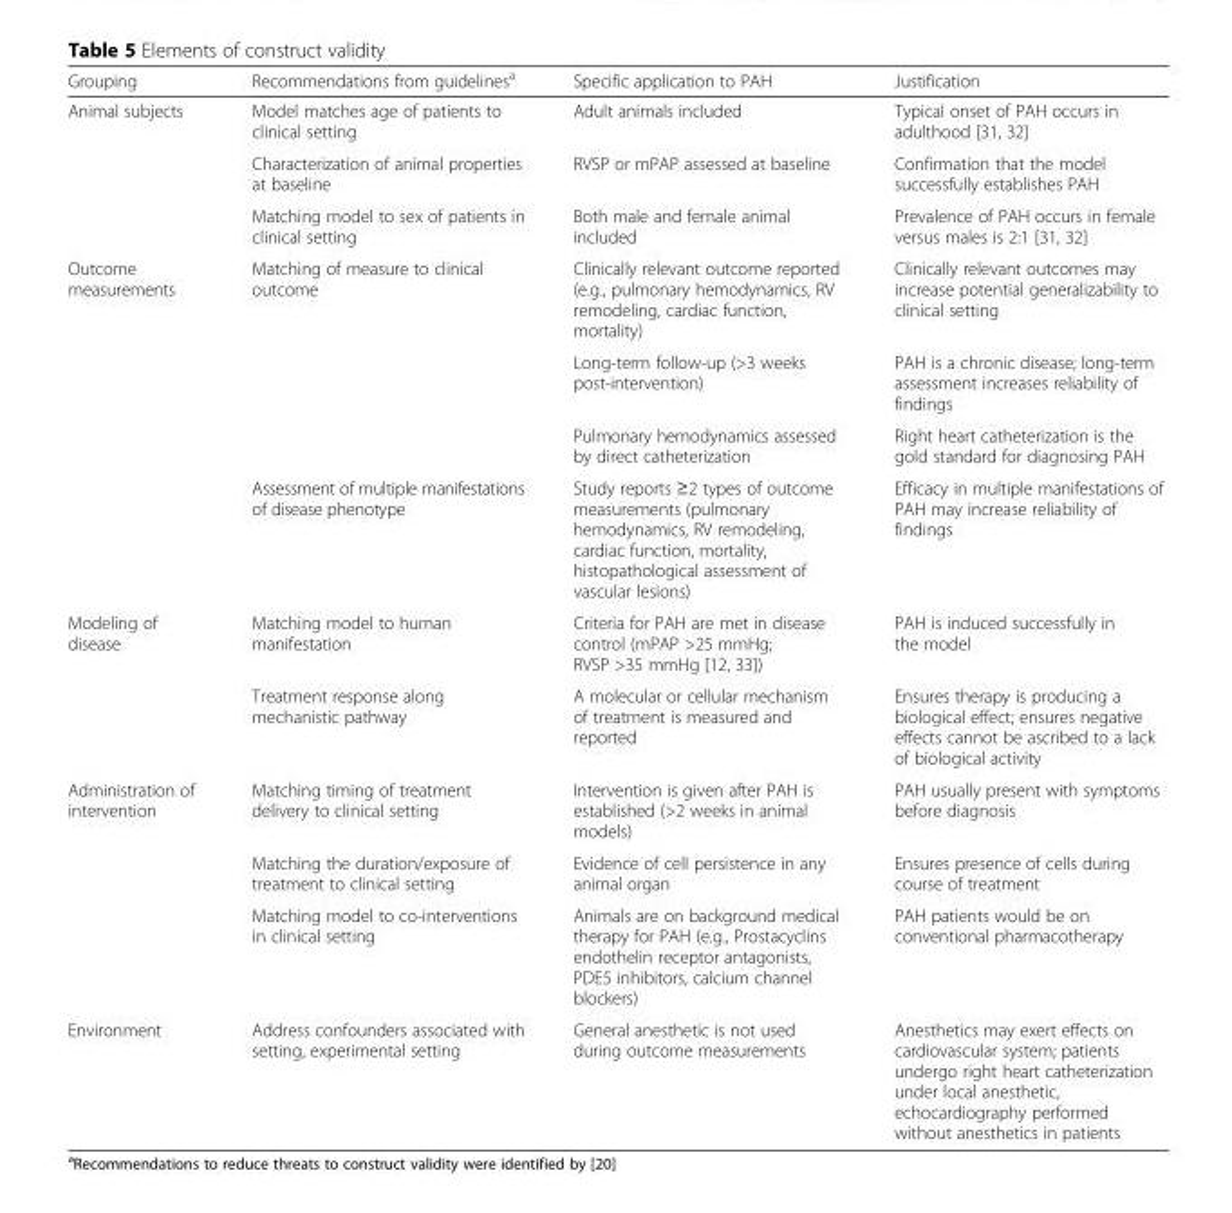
<table><thead><tr><td>Grouping</td><td>Recommendations from guidelines<sup>a</sup></td><td>Specific application to PAH</td><td>Justification</td></tr></thead><tbody><tr><td rowspan="3">Animal subjects</td><td>Model matches age of patients to clinical setting</td><td>Adult animals included</td><td>Typical onset of PAH occurs in adulthood [31, 32]</td></tr><tr><td>Characterization of animal properties at baseline</td><td>RVSP or mPAP assessed at baseline</td><td>Confirmation that the model successfully establishes PAH</td></tr><tr><td>Matching model to sex of patients in clinical setting</td><td>Both male and female animal included</td><td>Prevalence of PAH occurs in female versus males is 2:1 [31, 32]</td></tr><tr><td rowspan="4">Outcome measurements</td><td>Matching of measure to clinical outcome</td><td>Clinically relevant outcome reported (e.g., pulmonary hemodynamics, RV remodeling, cardiac function, mortality)</td><td>Clinically relevant outcomes may increase potential generalizability to clinical setting</td></tr><tr><td></td><td>Long-term follow-up (&gt;3 weeks post-intervention)</td><td>PAH is a chronic disease; long-term assessment increases reliability of findings</td></tr><tr><td></td><td>Pulmonary hemodynamics assessed by direct catheterization</td><td>Right heart catheterization is the gold standard for diagnosing PAH</td></tr><tr><td>Assessment of multiple manifestations of disease phenotype</td><td>Study reports ≥2 types of outcome measurements (pulmonary hemodynamics, RV remodeling, cardiac function, mortality, histopathological assessment of vascular lesions)</td><td>Efficacy in multiple manifestations of PAH may increase reliability of findings</td></tr><tr><td rowspan="2">Modeling of disease</td><td>Matching model to human manifestation</td><td>Criteria for PAH are met in disease control (mPAP &gt;25 mmHg; RVSP &gt;35 mmHg [12, 33])</td><td>PAH is induced successfully in the model</td></tr><tr><td>Treatment response along mechanistic pathway</td><td>A molecular or cellular mechanism of treatment is measured and reported</td><td>Ensures therapy is producing a biological effect; ensures negative effects cannot be ascribed to a lack of biological activity</td></tr><tr><td rowspan="3">Administration of intervention</td><td>Matching timing of treatment delivery to clinical setting</td><td>Intervention is given after PAH is established (&gt;2 weeks in animal models)</td><td>PAH usually present with symptoms before diagnosis</td></tr><tr><td>Matching the duration/exposure of treatment to clinical setting</td><td>Evidence of cell persistence in any animal organ</td><td>Ensures presence of cells during course of treatment</td></tr><tr><td>Matching model to co-interventions in clinical setting</td><td>Animals are on background medical therapy for PAH (e.g., Prostacyclins endothelin receptor antagonists, PDE5 inhibitors, calcium channel blockers)</td><td>PAH patients would be on conventional pharmacotherapy</td></tr><tr><td>Environment</td><td>Address confounders associated with setting, experimental setting</td><td>General anesthetic is not used during outcome measurements</td><td>Anesthetics may exert effects on cardiovascular system; patients undergo right heart catheterization under local anesthetic, echocardiography performed without anesthetics in patients</td></tr></tbody></table>